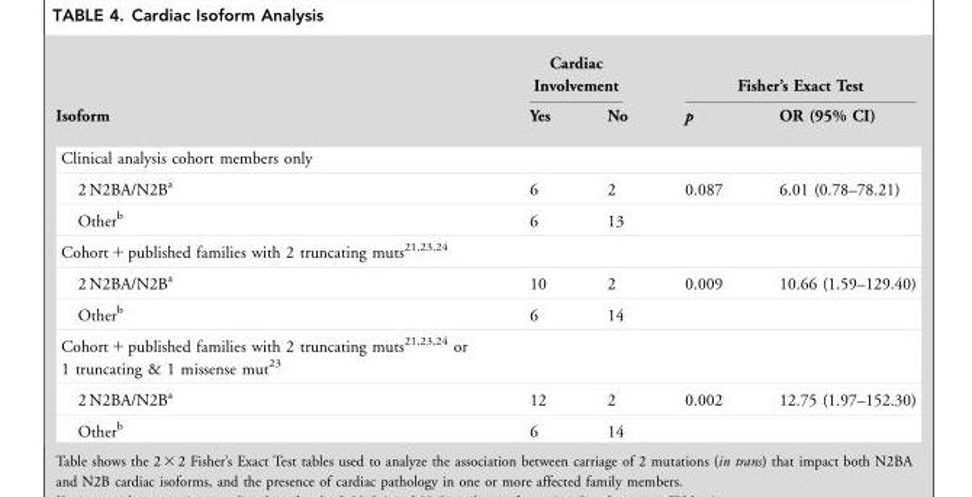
<table><thead><tr><td rowspan="2">Isoform</td><td colspan="2">Cardiac Involvement</td><td colspan="2">Fisher’s Exact Test</td></tr><tr><td>Yes</td><td>No</td><td>p</td><td>OR (95% CI)</td></tr></thead><tbody><tr><td colspan="5">Clinical analysis cohort members only</td></tr><tr><td>2 N2BA/N2B<sup>a</sup></td><td>6</td><td>2</td><td>0.087</td><td>6.01 (0.78–78.21)</td></tr><tr><td>Other<sup>b</sup></td><td>6</td><td>13</td><td></td><td></td></tr><tr><td colspan="5">Cohort + published families with 2 truncating muts<sup>21</sup>,<sup>23</sup>,<sup>24</sup></td></tr><tr><td>2 N2BA/N2B<sup>a</sup></td><td>10</td><td>2</td><td>0.009</td><td>10.66 (1.59–129.40)</td></tr><tr><td>Other<sup>b</sup></td><td>6</td><td>14</td><td></td><td></td></tr><tr><td colspan="5">Cohort + published families with 2 truncating muts<sup>21</sup>,<sup>23</sup>,<sup>24</sup> or 1 truncating &amp; 1 missense mut<sup>23</sup></td></tr><tr><td>2 N2BA/N2B<sup>a</sup></td><td>12</td><td>2</td><td>0.002</td><td>12.75 (1.97–152.30)</td></tr><tr><td>Other<sup>b</sup></td><td>6</td><td>14</td><td></td><td></td></tr></tbody></table>